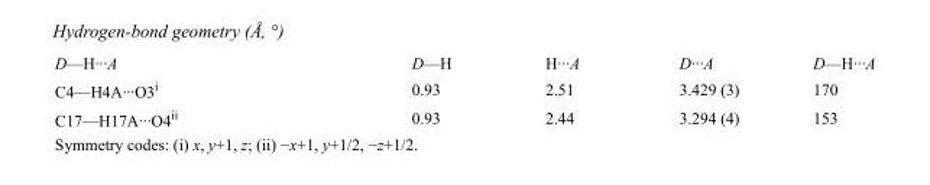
<table><tbody><tr><td>D—H···A</td><td>D—H</td><td>H···A</td><td>D···A</td><td>D—H···A</td></tr><tr><td>C4—H4A···O3<sup>i</sup></td><td>0.93</td><td>2.51</td><td>3.429 (3)</td><td>170</td></tr><tr><td>C17—H17A···O4<sup>ii</sup></td><td>0.93</td><td>2.44</td><td>3.294 (4)</td><td>153</td></tr></tbody></table>